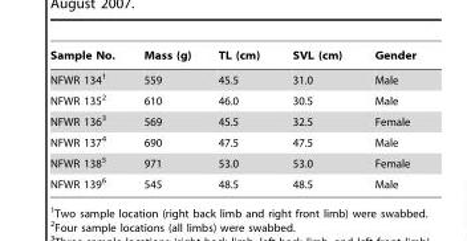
<table><thead><tr><td>Sample No.</td><td>Mass (g)</td><td>TL (cm)</td><td>SVL (cm)</td><td>Gender</td></tr></thead><tbody><tr><td>NFWR 134<sup>1</sup></td><td>559</td><td>45.5</td><td>31.0</td><td>Male</td></tr><tr><td>NFWR 135<sup>2</sup></td><td>610</td><td>46.0</td><td>30.5</td><td>Male</td></tr><tr><td>NFWR 136<sup>3</sup></td><td>569</td><td>45.5</td><td>32.5</td><td>Female</td></tr><tr><td>NFWR 137<sup>4</sup></td><td>690</td><td>47.5</td><td>47.5</td><td>Male</td></tr><tr><td>NFWR 138<sup>5</sup></td><td>971</td><td>53.0</td><td>53.0</td><td>Female</td></tr><tr><td>NFWR 139<sup>6</sup></td><td>545</td><td>48.5</td><td>48.5</td><td>Male</td></tr></tbody></table>